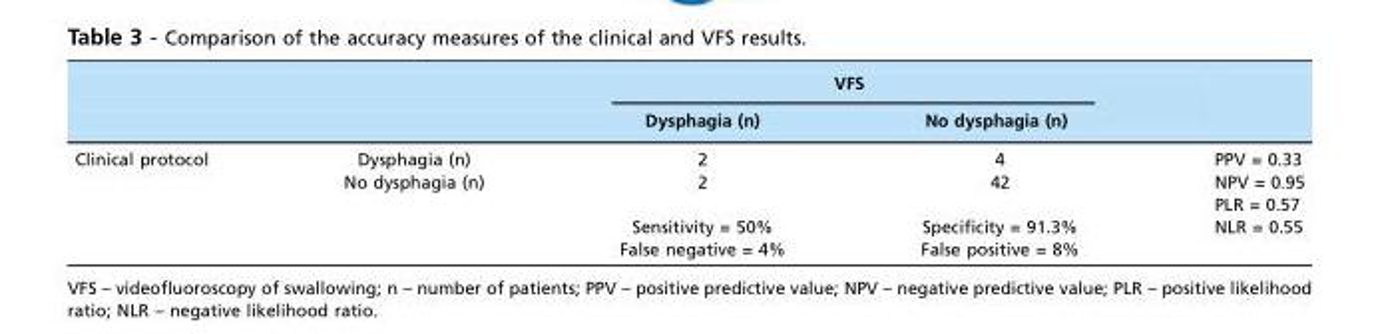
<table><thead><tr><td rowspan="2"></td><td rowspan="2"></td><td colspan="2">VFS</td><td rowspan="2"></td></tr><tr><td>Dysphagia (n)</td><td>No dysphagia (n)</td></tr></thead><tbody><tr><td rowspan="5">Clinical protocol</td><td>Dysphagia (n)</td><td>2</td><td>4</td><td>PPV = 0.33</td></tr><tr><td>No dysphagia (n)</td><td>2</td><td>42</td><td>NPV = 0.95</td></tr><tr><td></td><td></td><td></td><td>PLR = 0.57</td></tr><tr><td></td><td>Sensitivity = 50%</td><td>Specificity = 91.3%</td><td>NLR = 0.55</td></tr><tr><td></td><td>False negative = 4%</td><td>False positive = 8%</td><td></td></tr></tbody></table>